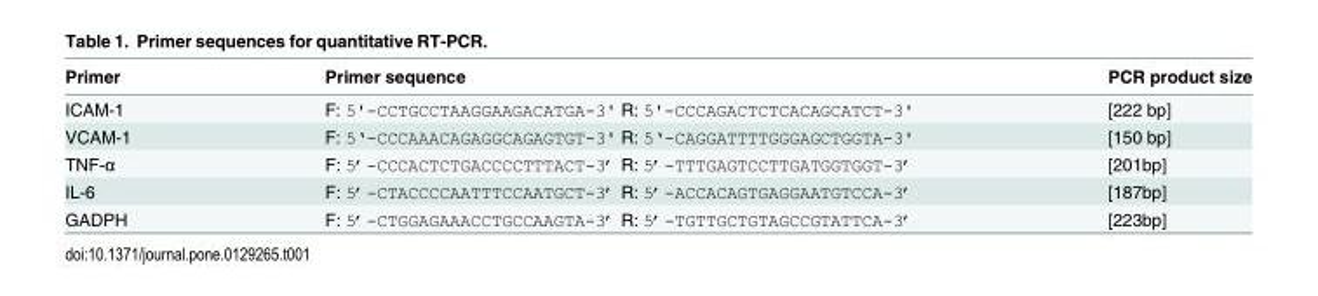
<table><thead><tr><td>Primer</td><td>Primer sequence</td><td>PCR product size</td></tr></thead><tbody><tr><td>ICAM-1</td><td>F: 5&#x27;-CCTGCCTAAGGAAGACATGA-3&#x27; R: 5&#x27;-CCCAGACTCTCACAGCATCT-3&#x27;</td><td>[222 bp]</td></tr><tr><td>VCAM-1</td><td>F: 5‘-CCCAAACAGAGGCAGAGTGT-3&#x27; R: 5‘-CAGGATTTTGGGAGCTGGTA-3&#x27;</td><td>[150 bp]</td></tr><tr><td>TNF-α</td><td>F: 5’-CCCACTCTGACCCCTTTACT-3’ R: 5’-TTTGAGTCCTTGATGGTGGT-3’</td><td>[201bp]</td></tr><tr><td>IL-6</td><td>F: 5’-CTACCCCAATTTCCAATGCT-3’ R: 5’-ACCACAGTGAGGAATGTCCA-3’</td><td>[187bp]</td></tr><tr><td>GADPH</td><td>F: 5’-CTGGAGAAACCTGCCAAGTA-3’ R: 5’-TGTTGCTGTAGCCGTATTCA-3’</td><td>[223bp]</td></tr></tbody></table>